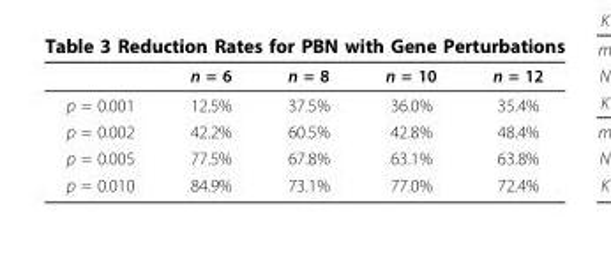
<table><thead><tr><td></td><td>n = 6</td><td>n = 8</td><td>n = 10</td><td>n = 12</td></tr></thead><tbody><tr><td>p = 0.001</td><td>12.5%</td><td>37.5%</td><td>36.0%</td><td>35.4%</td></tr><tr><td>p = 0.002</td><td>42.2%</td><td>60.5%</td><td>42.8%</td><td>48.4%</td></tr><tr><td>p = 0.005</td><td>77.5%</td><td>67.8%</td><td>63.1%</td><td>63.8%</td></tr><tr><td>p = 0.010</td><td>84.9%</td><td>73.1%</td><td>77.0%</td><td>72.4%</td></tr></tbody></table>